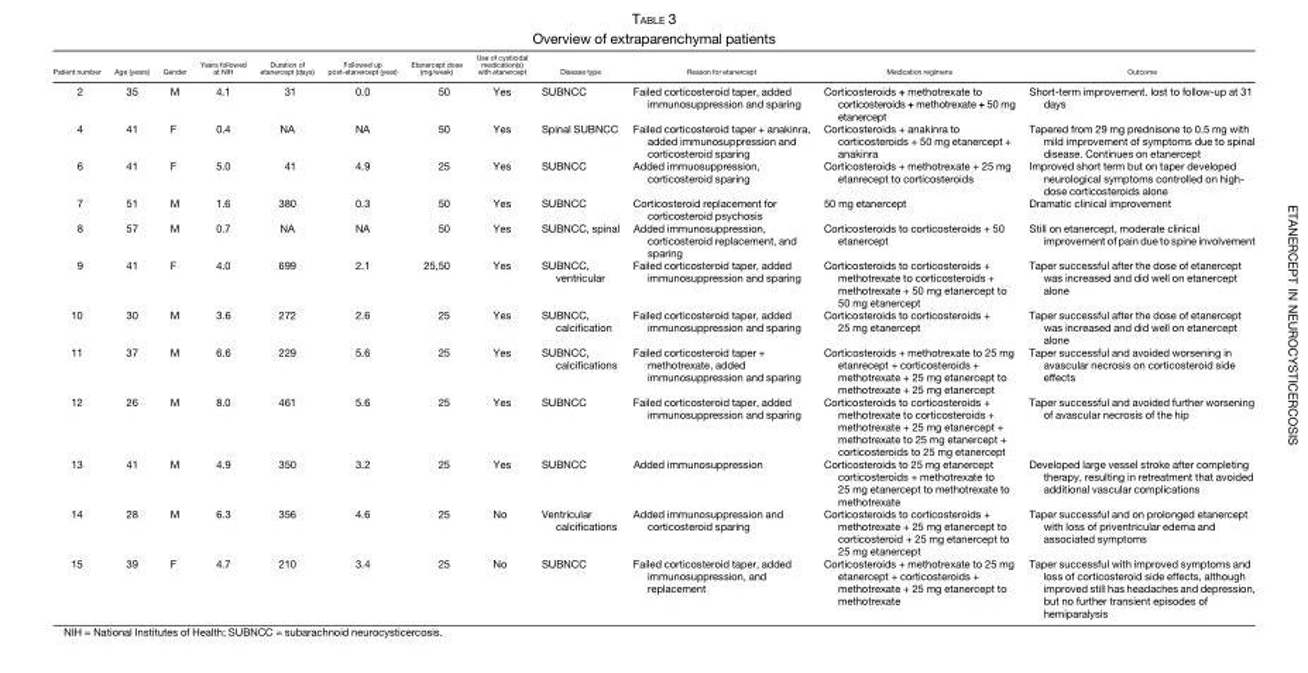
<table><thead><tr><td>Patient number</td><td>Age (years)</td><td>Gender</td><td>Years followed at NIH</td><td>Duration of etanercept (days)</td><td>Followed up post-etanercept (year)</td><td>Etanercept dose (mg/week)</td><td>Use of cysticidal medication(s) with etanercept</td><td>Disease type</td><td>Reason for etanercept</td><td>Medication regimens</td><td>Outcome</td></tr></thead><tbody><tr><td>2</td><td>35</td><td>M</td><td>4.1</td><td>31</td><td>0.0</td><td>50</td><td>Yes</td><td>SUBNCC</td><td>Failed corticosteroid taper, added immunosuppression and sparing</td><td>Corticosteroids + methotrexate to corticosteroids + methotrexate + 50 mg etanercept</td><td>Short-term improvement. lost to follow-up at 31 days</td></tr><tr><td>4</td><td>41</td><td>F</td><td>0.4</td><td>NA</td><td>NA</td><td>50</td><td>Yes</td><td>Spinal SUBNCC</td><td>Failed corticosteroid taper + anakinra, added immunosuppression and corticosteroid sparing</td><td>Corticosteroids + anakinra to corticosteroids + 50 mg etanercept + anakinra</td><td>Tapered from 29 mg prednisone to 0.5 mg with mild improvement of symptoms due to spinal disease. Continues on etanercept</td></tr><tr><td>6</td><td>41</td><td>F</td><td>5.0</td><td>41</td><td>4.9</td><td>25</td><td>Yes</td><td>SUBNCC</td><td>Added immuosuppression, corticosteroid sparing</td><td>Corticosteroids + methotrexate + 25 mg etanrecept to corticosteroids</td><td>Improved short term but on taper developed neurological symptoms controlled on high- dose corticosteroids alone</td></tr><tr><td>7</td><td>51</td><td>M</td><td>1.6</td><td>380</td><td>0.3</td><td>50</td><td>Yes</td><td>SUBNCC</td><td>Corticosteroid replacement for corticosteroid psychosis</td><td>50 mg etanercept</td><td>Dramatic clinical improvement</td></tr><tr><td>8</td><td>57</td><td>M</td><td>0.7</td><td>NA</td><td>NA</td><td>50</td><td>Yes</td><td>SUBNCC, spinal</td><td>Added immunosuppression, corticosteroid replacement, and sparing</td><td>Corticosteroids to corticosteroids + 50 etanercept</td><td>Still on etanercept, moderate clinical improvement of pain due to spine involvement</td></tr><tr><td>9</td><td>41</td><td>F</td><td>4.0</td><td>699</td><td>2.1</td><td>25,50</td><td>Yes</td><td>SUBNCC, ventricular</td><td>Failed corticosteroid taper, added immunosuppression and sparing</td><td>Corticosteroids to corticosteroids + methotrexate to corticosteroids + methotrexate + 50 mg etanercept to 50 mg etanercept</td><td>Taper successful after the dose of etanercept was increased and did well on etanercept alone</td></tr><tr><td>10</td><td>30</td><td>M</td><td>3.6</td><td>272</td><td>2.6</td><td>25</td><td>Yes</td><td>SUBNCC, calcification</td><td>Failed corticosteroid taper, added immunosuppression and sparing</td><td>Corticosteroids to corticosteroids + 25 mg etanercept</td><td>Taper successful after the dose of etanercept was increased and did well on etanercept alone</td></tr><tr><td>11</td><td>37</td><td>M</td><td>6.6</td><td>229</td><td>5.6</td><td>25</td><td>Yes</td><td>SUBNCC, calcifications</td><td>Failed corticosteroid taper + methotrexate, added immunosuppression and sparing</td><td>Corticosteroids + methotrexate to 25 mg etanrecept + corticosteroids + methotrexate + 25 mg etanercept to methotrexate + 25 mg etanercept</td><td>Taper successful and avoided worsening in avascular necrosis on corticosteroid side effects</td></tr><tr><td>12</td><td>26</td><td>M</td><td>8.0</td><td>461</td><td>5.6</td><td>25</td><td>Yes</td><td>SUBNCC</td><td>Failed corticosteroid taper, added immunosuppression and sparing</td><td>Corticosteroids to corticosteroids + methotrexate to corticosteroids + methotrexate + 25 mg etanercept + methotrexate to 25 mg etanercept + corticosteroids to 25 mg etanercept</td><td>Taper successful and avoided further worsening of avascular necrosis of the hip</td></tr><tr><td>13</td><td>41</td><td>M</td><td>4.9</td><td>350</td><td>3.2</td><td>25</td><td>Yes</td><td>SUBNCC</td><td>Added immunosuppression</td><td>Corticosteroids to 25 mg etanercept corticosteroids + methotrexate to 25 mg etanercept to methotrexate to methotrexate</td><td>Developed large vessel stroke after completing therapy, resulting in retreatment that avoided additional vascular complications</td></tr><tr><td>14</td><td>28</td><td>M</td><td>6.3</td><td>356</td><td>4.6</td><td>25</td><td>No</td><td>Ventricular calcifications</td><td>Added immunosuppression and corticosteroid sparing</td><td>Corticosteroids to corticosteroids + methotrexate + 25 mg etanercept to corticosteroid + 25 mg etanercept to 25 mg etanercept</td><td>Taper successful and on prolonged etanercept with loss of priventricular edema and associated symptoms</td></tr><tr><td>15</td><td>39</td><td>F</td><td>4.7</td><td>210</td><td>3.4</td><td>25</td><td>No</td><td>SUBNCC</td><td>Failed corticosteroid taper, added immunosuppression, and replacement</td><td>Corticosteroids + methotrexate to 25 mg etanercept + corticosteroids + methotrexate + 25 mg etanercept to methotrexate</td><td>Taper successful with improved symptoms and loss of corticosteroid side effects, although improved still has headaches and depression, but no further transient episodes of hemiparalysis</td></tr></tbody></table>